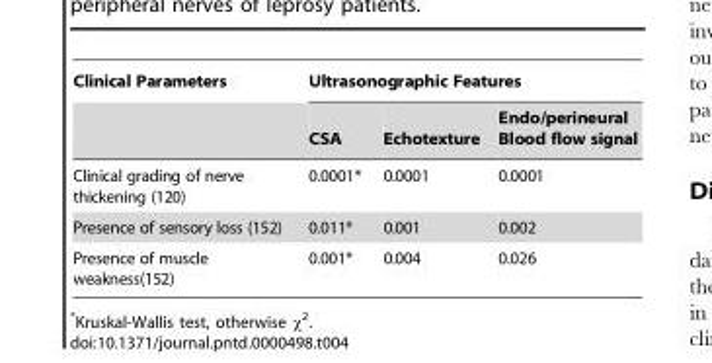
<table><thead><tr><td rowspan="2">Clinical Parameters</td><td colspan="3">Ultrasonographic Features</td></tr><tr><td>CSA</td><td>Echotexture</td><td>Endo/perineural Blood flow signal</td></tr></thead><tbody><tr><td>Clinical grading of nerve thickening (120)</td><td>0.0001*</td><td>0.0001</td><td>0.0001</td></tr><tr><td>Presence of sensory loss (152)</td><td>0.011*</td><td>0.001</td><td>0.002</td></tr><tr><td>Presence of muscle weakness(152)</td><td>0.001*</td><td>0.004</td><td>0.026</td></tr></tbody></table>